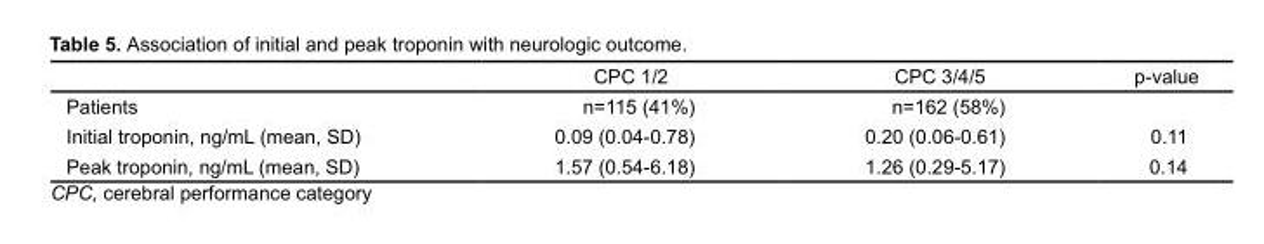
<table><thead><tr><td></td><td>CPC 1/2</td><td>CPC 3/4/5</td><td>p-value</td></tr></thead><tbody><tr><td>Patients</td><td>n=115 (41%)</td><td>n=162 (58%)</td><td></td></tr><tr><td>Initial troponin, ng/mL (mean, SD)</td><td>0.09 (0.04-0.78)</td><td>0.20 (0.06-0.61)</td><td>0.11</td></tr><tr><td>Peak troponin, ng/mL (mean, SD)</td><td>1.57 (0.54-6.18)</td><td>1.26 (0.29-5.17)</td><td>0.14</td></tr></tbody></table>